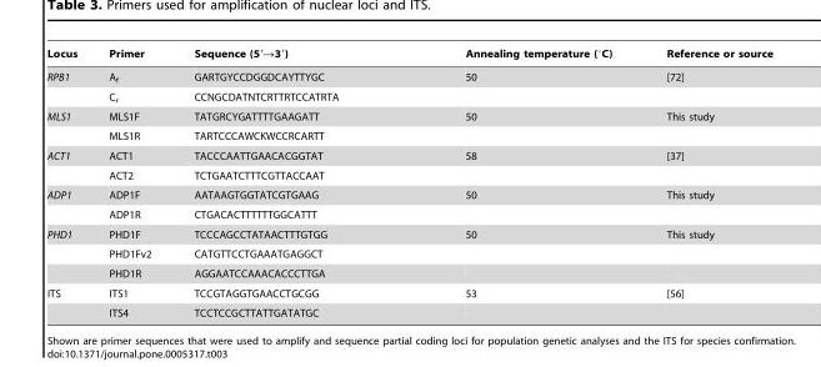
<table><thead><tr><td>Locus</td><td>Primer</td><td>Sequence (5′→3′)</td><td>Annealing temperature (°C)</td><td>Reference or source</td></tr></thead><tbody><tr><td rowspan="2">RPB1</td><td>A<sub>f</sub></td><td>GARTGYCCDGGDCAYTTYGC</td><td>50</td><td>[72]</td></tr><tr><td>C<sub>r</sub></td><td>CCNGCDATNTCRTTRTCCATRTA</td><td></td><td></td></tr><tr><td rowspan="2">MLS1</td><td>MLS1F</td><td>TATGRCYGATTTTGAAGATT</td><td>50</td><td>This study</td></tr><tr><td>MLS1R</td><td>TARTCCCAWCKWCCRCARTT</td><td></td><td></td></tr><tr><td rowspan="2">ACT1</td><td>ACT1</td><td>TACCCAATTGAACACGGTAT</td><td>58</td><td>[37]</td></tr><tr><td>ACT2</td><td>TCTGAATCTTTCGTTACCAAT</td><td></td><td></td></tr><tr><td rowspan="2">ADP1</td><td>ADP1F</td><td>AATAAGTGGTATCGTGAAG</td><td>50</td><td>This study</td></tr><tr><td>ADP1R</td><td>CTGACACTTTTTTGGCATTT</td><td></td><td></td></tr><tr><td rowspan="3">PHD1</td><td>PHD1F</td><td>TCCCAGCCTATAACTTTGTGG</td><td>50</td><td>This study</td></tr><tr><td>PHD1Fv2</td><td>CATGTTCCTGAAATGAGGCT</td><td></td><td></td></tr><tr><td>PHD1R</td><td>AGGAATCCAAACACCCTTGA</td><td></td><td></td></tr><tr><td rowspan="2">ITS</td><td>ITS1</td><td>TCCGTAGGTGAACCTGCGG</td><td>53</td><td>[56]</td></tr><tr><td>ITS4</td><td>TCCTCCGCTTATTGATATGC</td><td></td><td></td></tr></tbody></table>